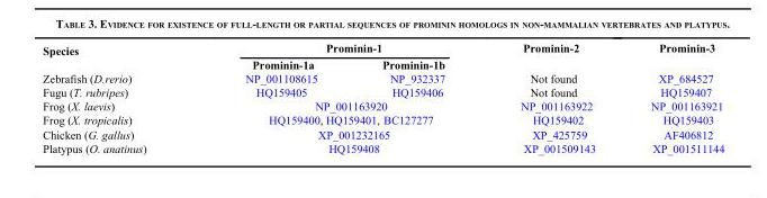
<table><thead><tr><td rowspan="2">Species</td><td colspan="2">Prominin-1</td><td rowspan="2">Prominin-2</td><td rowspan="2">Prominin-3</td></tr><tr><td>Prominin-1a</td><td>Prominin-1b</td></tr></thead><tbody><tr><td>Zebrafish (D.rerio)</td><td>NP_001108615</td><td>NP_932337</td><td>Not found</td><td>XP_684527</td></tr><tr><td>Fugu (T. rubripes)</td><td>HQ159405</td><td>HQ159406</td><td>Not found</td><td>HQ159407</td></tr><tr><td>Frog (X. laevis)</td><td colspan="2">NP_001163920</td><td>NP_001163922</td><td>NP_001163921</td></tr><tr><td>Frog (X. tropicalis)</td><td colspan="2">HQ159400, HQ159401, BC127277</td><td>HQ159402</td><td>HQ159403</td></tr><tr><td>Chicken (G. gallus)</td><td colspan="2">XP_001232165</td><td>XP_425759</td><td>AF406812</td></tr><tr><td>Platypus (O. anatinus)</td><td colspan="2">HQ159408</td><td>XP_001509143</td><td>XP_001511144</td></tr></tbody></table>